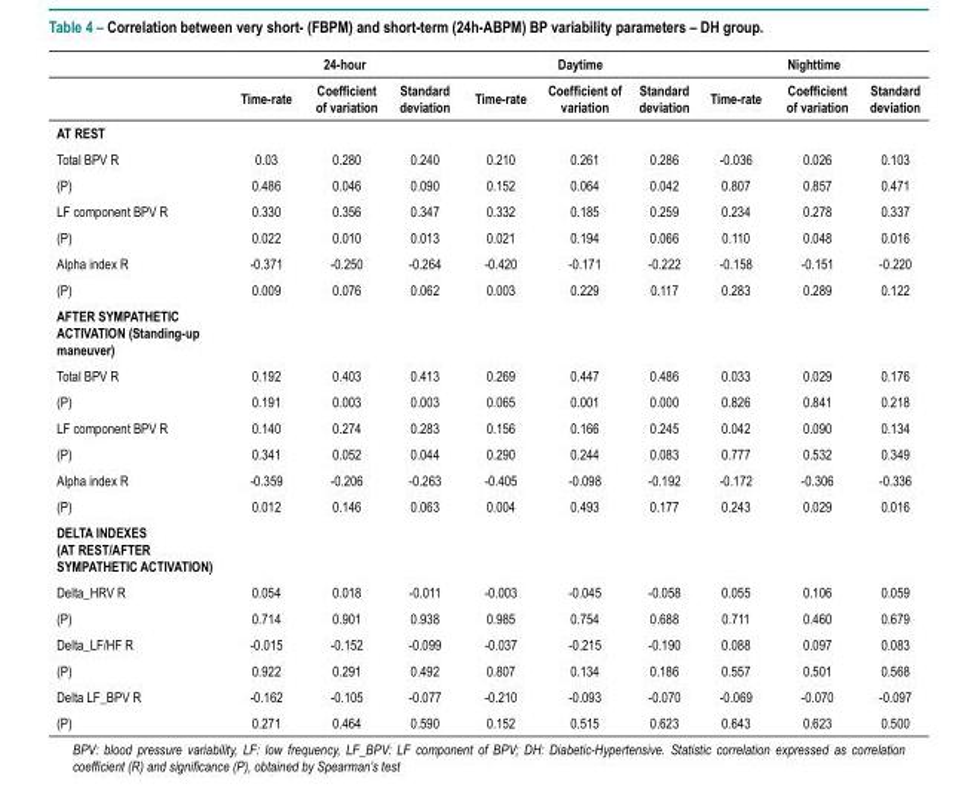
<table><thead><tr><td rowspan="2"></td><td colspan="3">24-hour</td><td colspan="3">Daytime</td><td colspan="3">Nighttime</td></tr><tr><td>Time-rate</td><td>Coefficient of variation</td><td>Standard deviation</td><td>Time-rate</td><td>Coefficient of variation</td><td>Standard deviation</td><td>Time-rate</td><td>Coefficient of variation</td><td>Standard deviation</td></tr></thead><tbody><tr><td colspan="10">AT REST</td></tr><tr><td>Total BPV R</td><td>0.03</td><td>0.280</td><td>0.240</td><td>0.210</td><td>0.261</td><td>0.286</td><td>-0.036</td><td>0.026</td><td>0.103</td></tr><tr><td>(P)</td><td>0.486</td><td>0.046</td><td>0.090</td><td>0.152</td><td>0.064</td><td>0.042</td><td>0.807</td><td>0.857</td><td>0.471</td></tr><tr><td>LF component BPV R</td><td>0.330</td><td>0.356</td><td>0.347</td><td>0.332</td><td>0.185</td><td>0.259</td><td>0.234</td><td>0.278</td><td>0.337</td></tr><tr><td>(P)</td><td>0.022</td><td>0.010</td><td>0.013</td><td>0.021</td><td>0.194</td><td>0.066</td><td>0.110</td><td>0.048</td><td>0.016</td></tr><tr><td>Alpha index R</td><td>-0.371</td><td>-0.250</td><td>-0.264</td><td>-0.420</td><td>-0.171</td><td>-0.222</td><td>-0.158</td><td>-0.151</td><td>-0.220</td></tr><tr><td>(P)</td><td>0.009</td><td>0.076</td><td>0.062</td><td>0.003</td><td>0.229</td><td>0.117</td><td>0.283</td><td>0.289</td><td>0.122</td></tr><tr><td colspan="10">AFTER SYMPATHETIC ACTIVATION (Standing-up maneuver)</td></tr><tr><td>Total BPV R</td><td>0.192</td><td>0.403</td><td>0.413</td><td>0.269</td><td>0.447</td><td>0.486</td><td>0.033</td><td>0.029</td><td>0.176</td></tr><tr><td>(P)</td><td>0.191</td><td>0.003</td><td>0.003</td><td>0.065</td><td>0.001</td><td>0.000</td><td>0.826</td><td>0.841</td><td>0.218</td></tr><tr><td>LF component BPV R</td><td>0.140</td><td>0.274</td><td>0.283</td><td>0.156</td><td>0.166</td><td>0.245</td><td>0.042</td><td>0.090</td><td>0.134</td></tr><tr><td>(P)</td><td>0.341</td><td>0.052</td><td>0.044</td><td>0.290</td><td>0.244</td><td>0.083</td><td>0.777</td><td>0.532</td><td>0.349</td></tr><tr><td>Alpha index R</td><td>-0.359</td><td>-0.206</td><td>-0.263</td><td>-0.405</td><td>-0.098</td><td>-0.192</td><td>-0.172</td><td>-0.306</td><td>-0.336</td></tr><tr><td>(P)</td><td>0.012</td><td>0.146</td><td>0.063</td><td>0.004</td><td>0.493</td><td>0.177</td><td>0.243</td><td>0.029</td><td>0.016</td></tr><tr><td colspan="10">DELTA INDEXES (AT REST/AFTER SYMPATHETIC ACTIVATION)</td></tr><tr><td>Delta_HRV R</td><td>0.054</td><td>0.018</td><td>-0.011</td><td>-0.003</td><td>-0.045</td><td>-0.058</td><td>0.055</td><td>0.106</td><td>0.059</td></tr><tr><td>(P)</td><td>0.714</td><td>0.901</td><td>0.938</td><td>0.985</td><td>0.754</td><td>0.688</td><td>0.711</td><td>0.460</td><td>0.679</td></tr><tr><td>Delta_LF/HF R</td><td>-0.015</td><td>-0.152</td><td>-0.099</td><td>-0.037</td><td>-0.215</td><td>-0.190</td><td>0.088</td><td>0.097</td><td>0.083</td></tr><tr><td>(P)</td><td>0.922</td><td>0.291</td><td>0.492</td><td>0.807</td><td>0.134</td><td>0.186</td><td>0.557</td><td>0.501</td><td>0.568</td></tr><tr><td>Delta LF_BPV R</td><td>-0.162</td><td>-0.105</td><td>-0.077</td><td>-0.210</td><td>-0.093</td><td>-0.070</td><td>-0.069</td><td>-0.070</td><td>-0.097</td></tr><tr><td>(P)</td><td>0.271</td><td>0.464</td><td>0.590</td><td>0.152</td><td>0.515</td><td>0.623</td><td>0.643</td><td>0.623</td><td>0.500</td></tr></tbody></table>